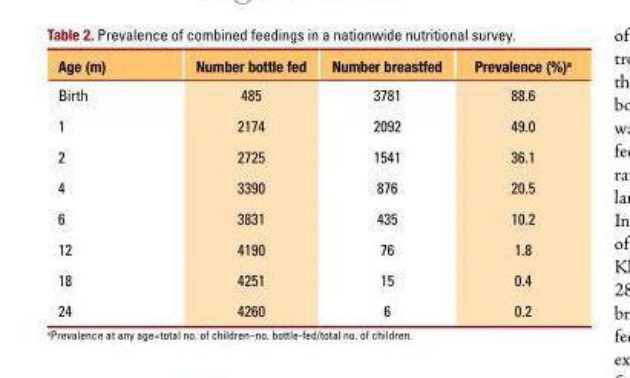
<table><thead><tr><td>Age (m)</td><td>Number bottle fed</td><td>Number breastfed</td><td>Prevalence (%)<sup>a</sup></td></tr></thead><tbody><tr><td>Birth</td><td>485</td><td>3781</td><td>88.6</td></tr><tr><td>1</td><td>2174</td><td>2092</td><td>49.0</td></tr><tr><td>2</td><td>2725</td><td>1541</td><td>36.1</td></tr><tr><td>4</td><td>3390</td><td>876</td><td>20.5</td></tr><tr><td>6</td><td>3831</td><td>435</td><td>10.2</td></tr><tr><td>12</td><td>4190</td><td>76</td><td>1.8</td></tr><tr><td>18</td><td>4251</td><td>15</td><td>0.4</td></tr><tr><td>24</td><td>4260</td><td>6</td><td>0.2</td></tr></tbody></table>